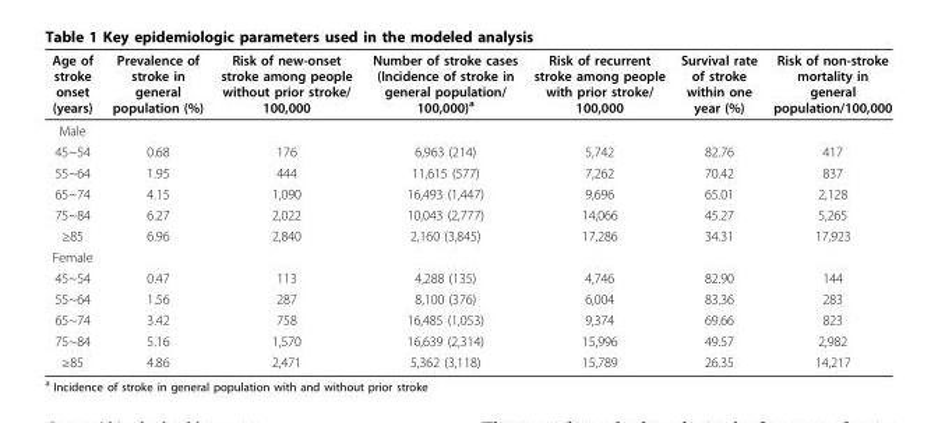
<table><thead><tr><td>Age of stroke onset (years)</td><td>Prevalence of stroke in general population (%)</td><td>Risk of new-onset stroke among people without prior stroke/ 100,000</td><td>Number of stroke cases (Incidence of stroke in general population/ 100,000)<sup>a</sup></td><td>Risk of recurrent stroke among people with prior stroke/ 100,000</td><td>Survival rate of stroke within one year (%)</td><td>Risk of non-stroke mortality in general population/100,000</td></tr></thead><tbody><tr><td colspan="7">Male</td></tr><tr><td>45~54</td><td>0.68</td><td>176</td><td>6,963 (214)</td><td>5,742</td><td>82.76</td><td>417</td></tr><tr><td>55~64</td><td>1.95</td><td>444</td><td>11,615 (577)</td><td>7,262</td><td>70.42</td><td>837</td></tr><tr><td>65~74</td><td>4.15</td><td>1,090</td><td>16,493 (1,447)</td><td>9,696</td><td>65.01</td><td>2,128</td></tr><tr><td>75~84</td><td>6.27</td><td>2,022</td><td>10,043 (2,777)</td><td>14,066</td><td>45.27</td><td>5,265</td></tr><tr><td>≥85</td><td>6.96</td><td>2,840</td><td>2,160 (3,845)</td><td>17,286</td><td>34.31</td><td>17,923</td></tr><tr><td colspan="7">Female</td></tr><tr><td>45~54</td><td>0.47</td><td>113</td><td>4,288 (135)</td><td>4,746</td><td>82.90</td><td>144</td></tr><tr><td>55~64</td><td>1.56</td><td>287</td><td>8,100 (376)</td><td>6,004</td><td>83.36</td><td>283</td></tr><tr><td>65~74</td><td>3.42</td><td>758</td><td>16,485 (1,053)</td><td>9,374</td><td>69.66</td><td>823</td></tr><tr><td>75~84</td><td>5.16</td><td>1,570</td><td>16,639 (2,314)</td><td>15,996</td><td>49.57</td><td>2,982</td></tr><tr><td>≥85</td><td>4.86</td><td>2,471</td><td>5,362 (3,118)</td><td>15,789</td><td>26.35</td><td>14,217</td></tr></tbody></table>